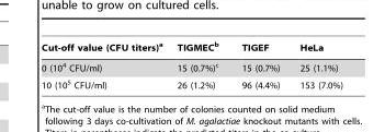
<table><thead><tr><td>Cut-off value (CFU titers)<sup>a</sup></td><td>TIGMEC<sup>b</sup></td><td>TIGEF</td><td>HeLa</td></tr></thead><tbody><tr><td>0 (10<sup>4</sup> CFU/ml)</td><td>15 (0.7%)<sup>c</sup></td><td>15 (0.7%)</td><td>25 (1.1%)</td></tr><tr><td>10 (10<sup>5</sup> CFU/ml)</td><td>26 (1.2%)</td><td>96 (4.4%)</td><td>153 (7.0%)</td></tr></tbody></table>